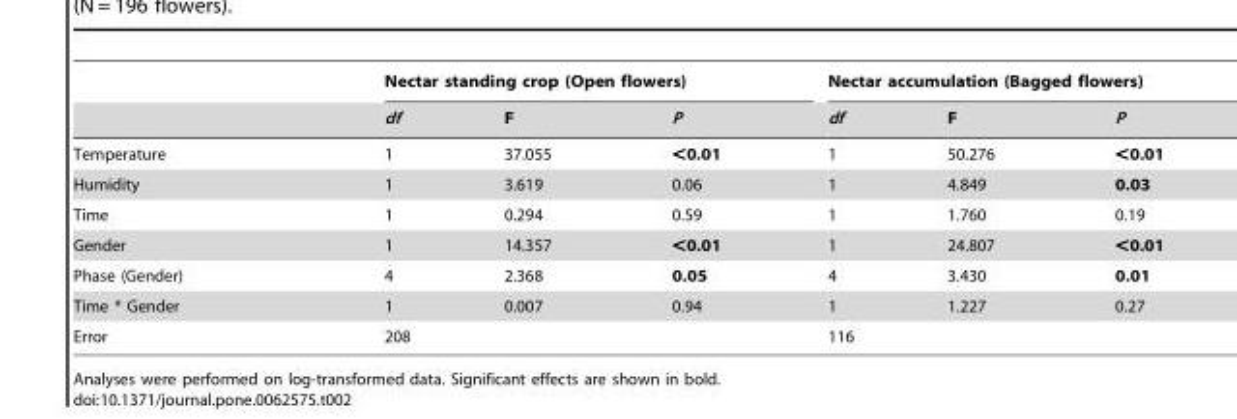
<table><thead><tr><td rowspan="2"></td><td colspan="3">Nectar standing crop (Open flowers)</td><td colspan="3">Nectar accumulation (Bagged flowers)</td></tr><tr><td>df</td><td>F</td><td>P</td><td>df</td><td>F</td><td>P</td></tr></thead><tbody><tr><td>Temperature</td><td>1</td><td>37.055</td><td>&lt;0.01</td><td>1</td><td>50.276</td><td>&lt;0.01</td></tr><tr><td>Humidity</td><td>1</td><td>3.619</td><td>0.06</td><td>1</td><td>4.849</td><td>0.03</td></tr><tr><td>Time</td><td>1</td><td>0.294</td><td>0.59</td><td>1</td><td>1.760</td><td>0.19</td></tr><tr><td>Gender</td><td>1</td><td>14.357</td><td>&lt;0.01</td><td>1</td><td>24.807</td><td>&lt;0.01</td></tr><tr><td>Phase (Gender)</td><td>4</td><td>2.368</td><td>0.05</td><td>4</td><td>3.430</td><td>0.01</td></tr><tr><td>Time * Gender</td><td>1</td><td>0.007</td><td>0.94</td><td>1</td><td>1.227</td><td>0.27</td></tr><tr><td>Error</td><td>208</td><td></td><td></td><td>116</td><td></td><td></td></tr></tbody></table>